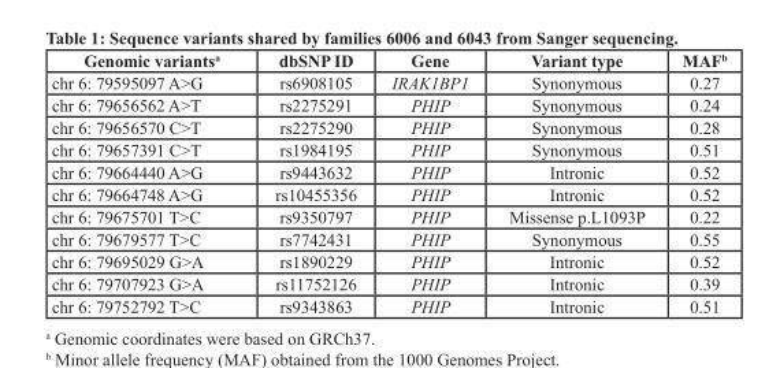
<table><thead><tr><td>Genomic variants<sup>a</sup></td><td>dbSNP ID</td><td>Gene</td><td>Variant type</td><td>MAF<sup>b</sup></td></tr></thead><tbody><tr><td>chr 6: 79595097 A&gt;G</td><td>rs6908105</td><td>IRAK1BP1</td><td>Synonymous</td><td>0.27</td></tr><tr><td>chr 6: 79656562 A&gt;T</td><td>rs2275291</td><td>PHIP</td><td>Synonymous</td><td>0.24</td></tr><tr><td>chr 6: 79656570 C&gt;T</td><td>rs2275290</td><td>PHIP</td><td>Synonymous</td><td>0.28</td></tr><tr><td>chr 6: 79657391 C&gt;T</td><td>rs1984195</td><td>PHIP</td><td>Synonymous</td><td>0.51</td></tr><tr><td>chr 6: 79664440 A&gt;G</td><td>rs9443632</td><td>PHIP</td><td>Intronic</td><td>0.52</td></tr><tr><td>chr 6: 79664748 A&gt;G</td><td>rs10455356</td><td>PHIP</td><td>Intronic</td><td>0.52</td></tr><tr><td>chr 6: 79675701 T&gt;C</td><td>rs9350797</td><td>PHIP</td><td>Missense p.L1093P</td><td>0.22</td></tr><tr><td>chr 6: 79679577 T&gt;C</td><td>rs7742431</td><td>PHIP</td><td>Synonymous</td><td>0.55</td></tr><tr><td>chr 6: 79695029 G&gt;A</td><td>rs1890229</td><td>PHIP</td><td>Intronic</td><td>0.52</td></tr><tr><td>chr 6: 79707923 G&gt;A</td><td>rs11752126</td><td>PHIP</td><td>Intronic</td><td>0.39</td></tr><tr><td>chr 6: 79752792 T&gt;C</td><td>rs9343863</td><td>PHIP</td><td>Intronic</td><td>0.51</td></tr></tbody></table>